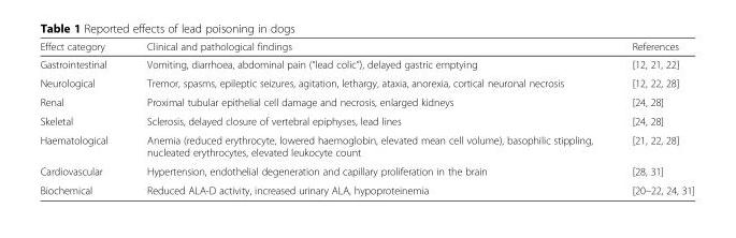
<table><thead><tr><td>Effect category</td><td>Clinical and pathological findings</td><td>References</td></tr></thead><tbody><tr><td>Gastrointestinal</td><td>Vomiting, diarrhoea, abdominal pain (“lead colic”), delayed gastric emptying</td><td>[12, 21, 22]</td></tr><tr><td>Neurological</td><td>Tremor, spasms, epileptic seizures, agitation, lethargy, ataxia, anorexia, cortical neuronal necrosis</td><td>[12, 22, 28]</td></tr><tr><td>Renal</td><td>Proximal tubular epithelial cell damage and necrosis, enlarged kidneys</td><td>[24, 28]</td></tr><tr><td>Skeletal</td><td>Sclerosis, delayed closure of vertebral epiphyses, lead lines</td><td>[24, 28]</td></tr><tr><td>Haematological</td><td>Anemia (reduced erythrocyte, lowered haemoglobin, elevated mean cell volume), basophilic stippling, nucleated erythrocytes, elevated leukocyte count</td><td>[21, 22, 28]</td></tr><tr><td>Cardiovascular</td><td>Hypertension, endothelial degeneration and capillary proliferation in the brain</td><td>[28, 31]</td></tr><tr><td>Biochemical</td><td>Reduced ALA-D activity, increased urinary ALA, hypoproteinemia</td><td>[20–22, 24, 31]</td></tr></tbody></table>